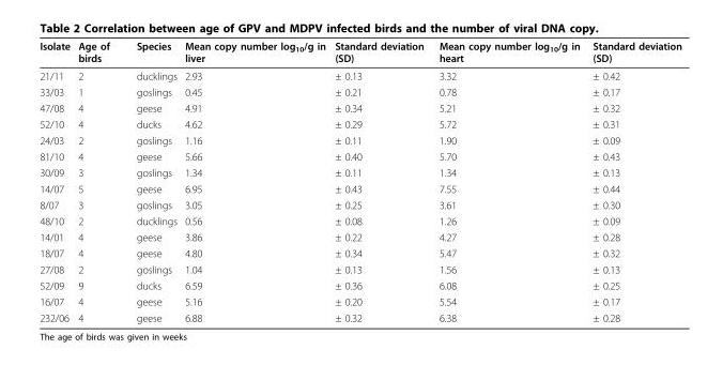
<table><thead><tr><td>Isolate</td><td>Age of birds</td><td>Species</td><td>Mean copy number log<sub>10</sub>/g in liver</td><td>Standard deviation (SD)</td><td>Mean copy number log<sub>10</sub>/g in heart</td><td>Standard deviation (SD)</td></tr></thead><tbody><tr><td>21/11</td><td>2</td><td>ducklings</td><td>2.93</td><td>± 0.13</td><td>3.32</td><td>± 0.42</td></tr><tr><td>33/03</td><td>1</td><td>goslings</td><td>0.45</td><td>± 0.21</td><td>0.78</td><td>± 0.17</td></tr><tr><td>47/08</td><td>4</td><td>geese</td><td>4.91</td><td>± 0.34</td><td>5.21</td><td>± 0.32</td></tr><tr><td>52/10</td><td>4</td><td>ducks</td><td>4.62</td><td>± 0.29</td><td>5.72</td><td>± 0.31</td></tr><tr><td>24/03</td><td>2</td><td>goslings</td><td>1.16</td><td>± 0.11</td><td>1.90</td><td>± 0.09</td></tr><tr><td>81/10</td><td>4</td><td>geese</td><td>5.66</td><td>± 0.40</td><td>5.70</td><td>± 0.43</td></tr><tr><td>30/09</td><td>3</td><td>goslings</td><td>1.34</td><td>± 0.11</td><td>1.34</td><td>± 0.13</td></tr><tr><td>14/07</td><td>5</td><td>geese</td><td>6.95</td><td>± 0.43</td><td>7.55</td><td>± 0.44</td></tr><tr><td>8/07</td><td>3</td><td>goslings</td><td>3.05</td><td>± 0.25</td><td>3.61</td><td>± 0.30</td></tr><tr><td>48/10</td><td>2</td><td>ducklings</td><td>0.56</td><td>± 0.08</td><td>1.26</td><td>± 0.09</td></tr><tr><td>14/01</td><td>4</td><td>geese</td><td>3.86</td><td>± 0.22</td><td>4.27</td><td>± 0.28</td></tr><tr><td>18/07</td><td>4</td><td>geese</td><td>4.80</td><td>± 0.34</td><td>5.47</td><td>± 0.32</td></tr><tr><td>27/08</td><td>2</td><td>goslings</td><td>1.04</td><td>± 0.13</td><td>1.56</td><td>± 0.13</td></tr><tr><td>52/09</td><td>9</td><td>ducks</td><td>6.59</td><td>± 0.36</td><td>6.08</td><td>± 0.25</td></tr><tr><td>16/07</td><td>4</td><td>geese</td><td>5.16</td><td>± 0.20</td><td>5.54</td><td>± 0.17</td></tr><tr><td>232/06</td><td>4</td><td>geese</td><td>6.88</td><td>± 0.32</td><td>6.38</td><td>± 0.28</td></tr></tbody></table>